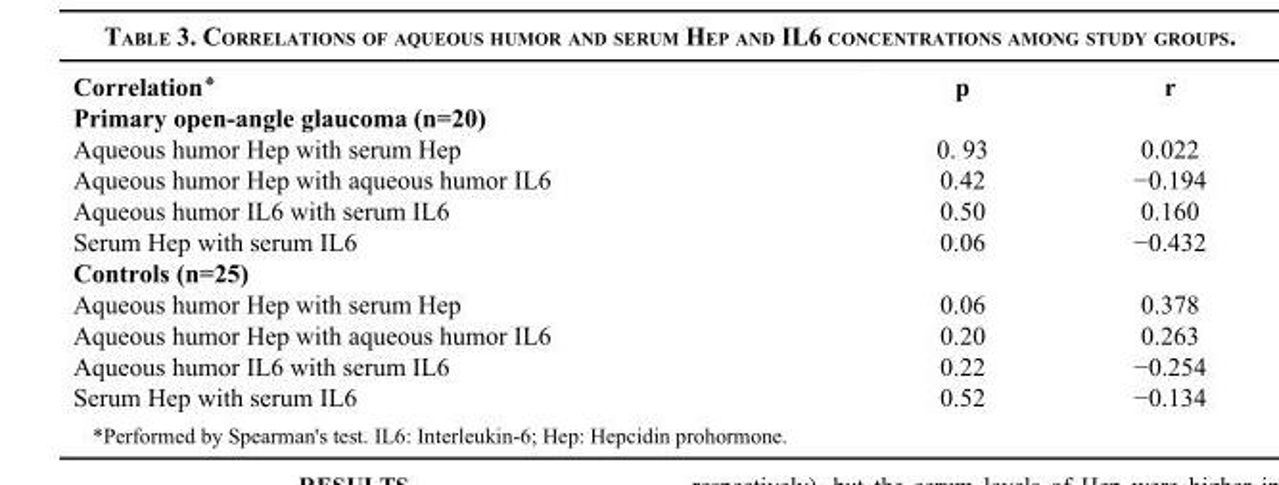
<table><thead><tr><td>Correlation٭</td><td>p</td><td>r</td></tr></thead><tbody><tr><td colspan="3">Primary open-angle glaucoma (n=20)</td></tr><tr><td>Aqueous humor Hep with serum Hep</td><td>0. 93</td><td>0.022</td></tr><tr><td>Aqueous humor Hep with aqueous humor IL6</td><td>0.42</td><td>−0.194</td></tr><tr><td>Aqueous humor IL6 with serum IL6</td><td>0.50</td><td>0.160</td></tr><tr><td>Serum Hep with serum IL6</td><td>0.06</td><td>−0.432</td></tr><tr><td colspan="3">Controls (n=25)</td></tr><tr><td>Aqueous humor Hep with serum Hep</td><td>0.06</td><td>0.378</td></tr><tr><td>Aqueous humor Hep with aqueous humor IL6</td><td>0.20</td><td>0.263</td></tr><tr><td>Aqueous humor IL6 with serum IL6</td><td>0.22</td><td>−0.254</td></tr><tr><td>Serum Hep with serum IL6</td><td>0.52</td><td>−0.134</td></tr></tbody></table>